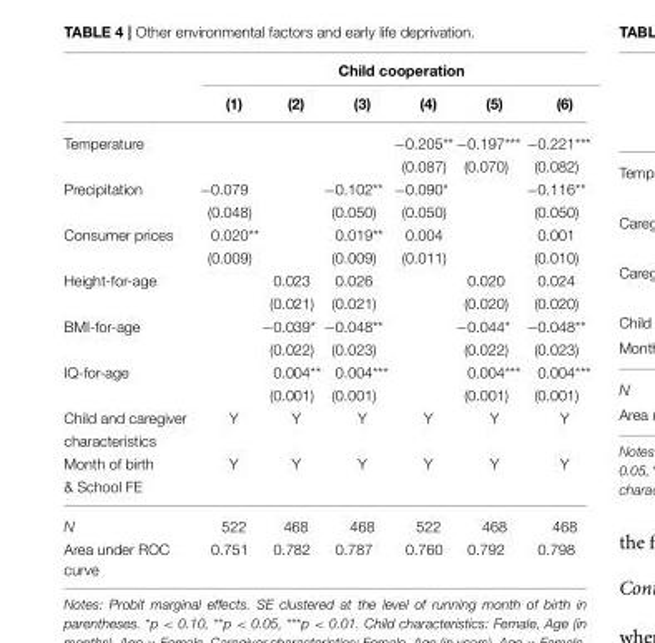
<table><thead><tr><td rowspan="2"></td><td colspan="6">Child cooperation</td></tr><tr><td>(1)</td><td>(2)</td><td>(3)</td><td>(4)</td><td>(5)</td><td>(6)</td></tr></thead><tbody><tr><td rowspan="2">Temperature</td><td></td><td></td><td></td><td>−0.205**</td><td>−0.197***</td><td>−0.221***</td></tr><tr><td></td><td></td><td></td><td>(0.087)</td><td>(0.070)</td><td>(0.082)</td></tr><tr><td rowspan="2">Precipitation</td><td>−0.079</td><td></td><td>−0.102**</td><td>−0.090*</td><td></td><td>−0.116**</td></tr><tr><td>(0.048)</td><td></td><td>(0.050)</td><td>(0.050)</td><td></td><td>(0.050)</td></tr><tr><td rowspan="2">Consumer prices</td><td>0.020**</td><td></td><td>0.019**</td><td>0.004</td><td></td><td>0.001</td></tr><tr><td>(0.009)</td><td></td><td>(0.009)</td><td>(0.011)</td><td></td><td>(0.010)</td></tr><tr><td rowspan="2">Height-for-age</td><td></td><td>0.023</td><td>0.026</td><td></td><td>0.020</td><td>0.024</td></tr><tr><td></td><td>(0.021)</td><td>(0.021)</td><td></td><td>(0.020)</td><td>(0.020)</td></tr><tr><td rowspan="2">BMI-for-age</td><td></td><td>−0.039*</td><td>−0.048**</td><td></td><td>−0.044*</td><td>−0.048**</td></tr><tr><td></td><td>(0.022)</td><td>(0.023)</td><td></td><td>(0.022)</td><td>(0.023)</td></tr><tr><td rowspan="2">IQ-for-age</td><td></td><td>0.004**</td><td>0.004***</td><td></td><td>0.004***</td><td>0.004***</td></tr><tr><td></td><td>(0.001)</td><td>(0.001)</td><td></td><td>(0.001)</td><td>(0.001)</td></tr><tr><td>Child and caregiver</td><td>Y</td><td>Y</td><td>Y</td><td>Y</td><td>Y</td><td>Y</td></tr><tr><td colspan="7">characteristics</td></tr><tr><td>Month of birth</td><td>Y</td><td>Y</td><td>Y</td><td>Y</td><td>Y</td><td>Y</td></tr><tr><td colspan="7">&amp; School FE</td></tr><tr><td>N</td><td>522</td><td>468</td><td>468</td><td>522</td><td>468</td><td>468</td></tr><tr><td>Area under ROC curve</td><td>0.751</td><td>0.782</td><td>0.787</td><td>0.760</td><td>0.792</td><td>0.798</td></tr></tbody></table>